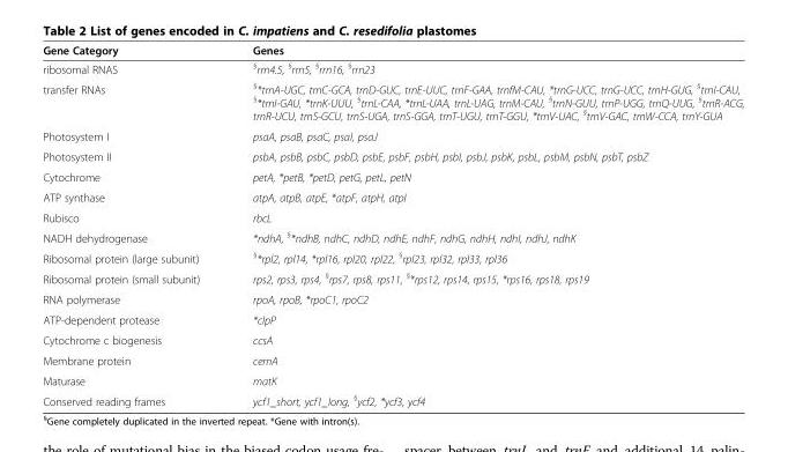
<table><thead><tr><td>Gene Category</td><td>Genes</td></tr></thead><tbody><tr><td>ribosomal RNAS</td><td><sup>§</sup>rrn4.5, <sup>§</sup>rrn5, <sup>§</sup>rrn16, <sup>§</sup>rrn23</td></tr><tr><td>transfer RNAs</td><td><sup>§</sup>*trnA-UGC, trnC-GCA, trnD-GUC, trnE-UUC, trnF-GAA, trnfM-CAU, *trnG-UCC, trnG-UCC, trnH-GUG, <sup>§</sup>trnI-CAU, <sup>§</sup>*trnI-GAU, *trnK-UUU, <sup>§</sup>trnL-CAA, *trnL-UAA, trnL-UAG, trnM-CAU, <sup>§</sup>trnN-GUU, trnP-UGG, trnQ-UUG, <sup>§</sup>trnR-ACG, trnR-UCU, trnS-GCU, trnS-UGA, trnS-GGA, trnT-UGU, trnT-GGU, *trnV-UAC, <sup>§</sup>trnV-GAC, trnW-CCA, trnY-GUA</td></tr><tr><td>Photosystem I</td><td>psaA, psaB, psaC, psaI, psaJ</td></tr><tr><td>Photosystem II</td><td>psbA, psbB, psbC, psbD, psbE, psbF, psbH, psbI, psbJ, psbK, psbL, psbM, psbN, psbT, psbZ</td></tr><tr><td>Cytochrome</td><td>petA, *petB, *petD, petG, petL, petN</td></tr><tr><td>ATP synthase</td><td>atpA, atpB, atpE, *atpF, atpH, atpI</td></tr><tr><td>Rubisco</td><td>rbcL</td></tr><tr><td>NADH dehydrogenase</td><td>*ndhA, <sup>§</sup>*ndhB, ndhC, ndhD, ndhE, ndhF, ndhG, ndhH, ndhI, ndhJ, ndhK</td></tr><tr><td>Ribosomal protein (large subunit)</td><td><sup>§</sup>*rpl2, rpl14, *rpl16, rpl20, rpl22, <sup>§</sup>rpl23, rpl32, rpl33, rpl36</td></tr><tr><td>Ribosomal protein (small subunit)</td><td>rps2, rps3, rps4, <sup>§</sup>rps7, rps8, rps11, <sup>§</sup>*rps12, rps14, rps15, *rps16, rps18, rps19</td></tr><tr><td>RNA polymerase</td><td>rpoA, rpoB, *rpoC1, rpoC2</td></tr><tr><td>ATP-dependent protease</td><td>*clpP</td></tr><tr><td>Cytochrome c biogenesis</td><td>ccsA</td></tr><tr><td>Membrane protein</td><td>cemA</td></tr><tr><td>Maturase</td><td>matK</td></tr><tr><td>Conserved reading frames</td><td>ycf1_short, ycf1_long, <sup>§</sup>ycf2, *ycf3, ycf4</td></tr></tbody></table>